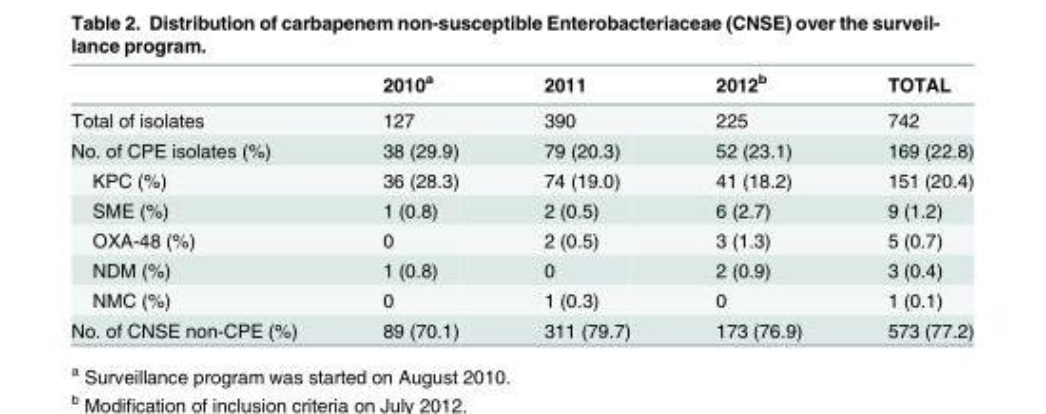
<table><thead><tr><td></td><td>2010<sup>a</sup></td><td>2011</td><td>2012<sup>b</sup></td><td>TOTAL</td></tr></thead><tbody><tr><td>Total of isolates</td><td>127</td><td>390</td><td>225</td><td>742</td></tr><tr><td>No. of CPE isolates (%)</td><td>38 (29.9)</td><td>79 (20.3)</td><td>52 (23.1)</td><td>169 (22.8)</td></tr><tr><td>KPC (%)</td><td>36 (28.3)</td><td>74 (19.0)</td><td>41 (18.2)</td><td>151 (20.4)</td></tr><tr><td>SME (%)</td><td>1 (0.8)</td><td>2 (0.5)</td><td>6 (2.7)</td><td>9 (1.2)</td></tr><tr><td>OXA-48 (%)</td><td>0</td><td>2 (0.5)</td><td>3 (1.3)</td><td>5 (0.7)</td></tr><tr><td>NDM (%)</td><td>1 (0.8)</td><td>0</td><td>2 (0.9)</td><td>3 (0.4)</td></tr><tr><td>NMC (%)</td><td>0</td><td>1 (0.3)</td><td>0</td><td>1 (0.1)</td></tr><tr><td>No. of CNSE non-CPE (%)</td><td>89 (70.1)</td><td>311 (79.7)</td><td>173 (76.9)</td><td>573 (77.2)</td></tr></tbody></table>